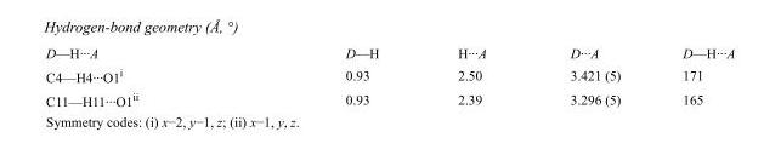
<table><tbody><tr><td>D—H···A</td><td>D—H</td><td>H···A</td><td>D···A</td><td>D—H···A</td></tr><tr><td>C4—H4···O1<sup>i</sup></td><td>0.93</td><td>2.50</td><td>3.421 (5)</td><td>171</td></tr><tr><td>C11—H11···O1<sup>ii</sup></td><td>0.93</td><td>2.39</td><td>3.296 (5)</td><td>165</td></tr></tbody></table>